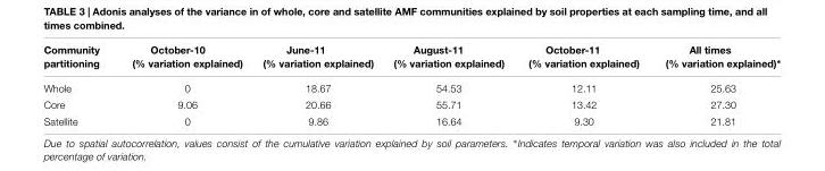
<table><thead><tr><td>Community partitioning</td><td>October-10 (% variation explained)</td><td>June-11 (% variation explained)</td><td>August-11 (% variation explained)</td><td>October-11 (% variation explained)</td><td>All times (% variation explained)∗</td></tr></thead><tbody><tr><td>Whole</td><td>0</td><td>18.67</td><td>54.53</td><td>12.11</td><td>25.63</td></tr><tr><td>Core</td><td>9.06</td><td>20.66</td><td>55.71</td><td>13.42</td><td>27.30</td></tr><tr><td>Satellite</td><td>0</td><td>9.86</td><td>16.64</td><td>9.30</td><td>21.81</td></tr></tbody></table>